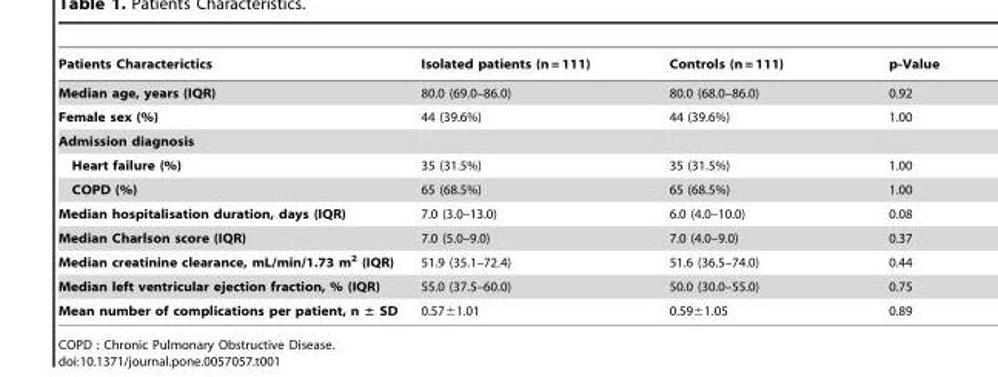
<table><thead><tr><td>Patients Characterictics</td><td>Isolated patients (n = 111)</td><td>Controls (n = 111)</td><td>p-Value</td></tr></thead><tbody><tr><td>Median age, years (IQR)</td><td>80.0 (69.0–86.0)</td><td>80.0 (68.0–86.0)</td><td>0.92</td></tr><tr><td>Female sex (%)</td><td>44 (39.6%)</td><td>44 (39.6%)</td><td>1.00</td></tr><tr><td colspan="4">Admission diagnosis</td></tr><tr><td>Heart failure (%)</td><td>35 (31.5%)</td><td>35 (31.5%)</td><td>1.00</td></tr><tr><td>COPD (%)</td><td>65 (68.5%)</td><td>65 (68.5%)</td><td>1.00</td></tr><tr><td>Median hospitalisation duration, days (IQR)</td><td>7.0 (3.0–13.0)</td><td>6.0 (4.0–10.0)</td><td>0.08</td></tr><tr><td>Median Charlson score (IQR)</td><td>7.0 (5.0–9.0)</td><td>7.0 (4.0–9.0)</td><td>0.37</td></tr><tr><td>Median creatinine clearance, mL/min/1.73 m<sup>2</sup> (IQR)</td><td>51.9 (35.1–72.4)</td><td>51.6 (36.5–74.0)</td><td>0.44</td></tr><tr><td>Median left ventricular ejection fraction, % (IQR)</td><td>55.0 (37.5–60.0)</td><td>50.0 (30.0–55.0)</td><td>0.75</td></tr><tr><td>Mean number of complications per patient, n ± SD</td><td>0.57±1.01</td><td>0.59±1.05</td><td>0.89</td></tr></tbody></table>